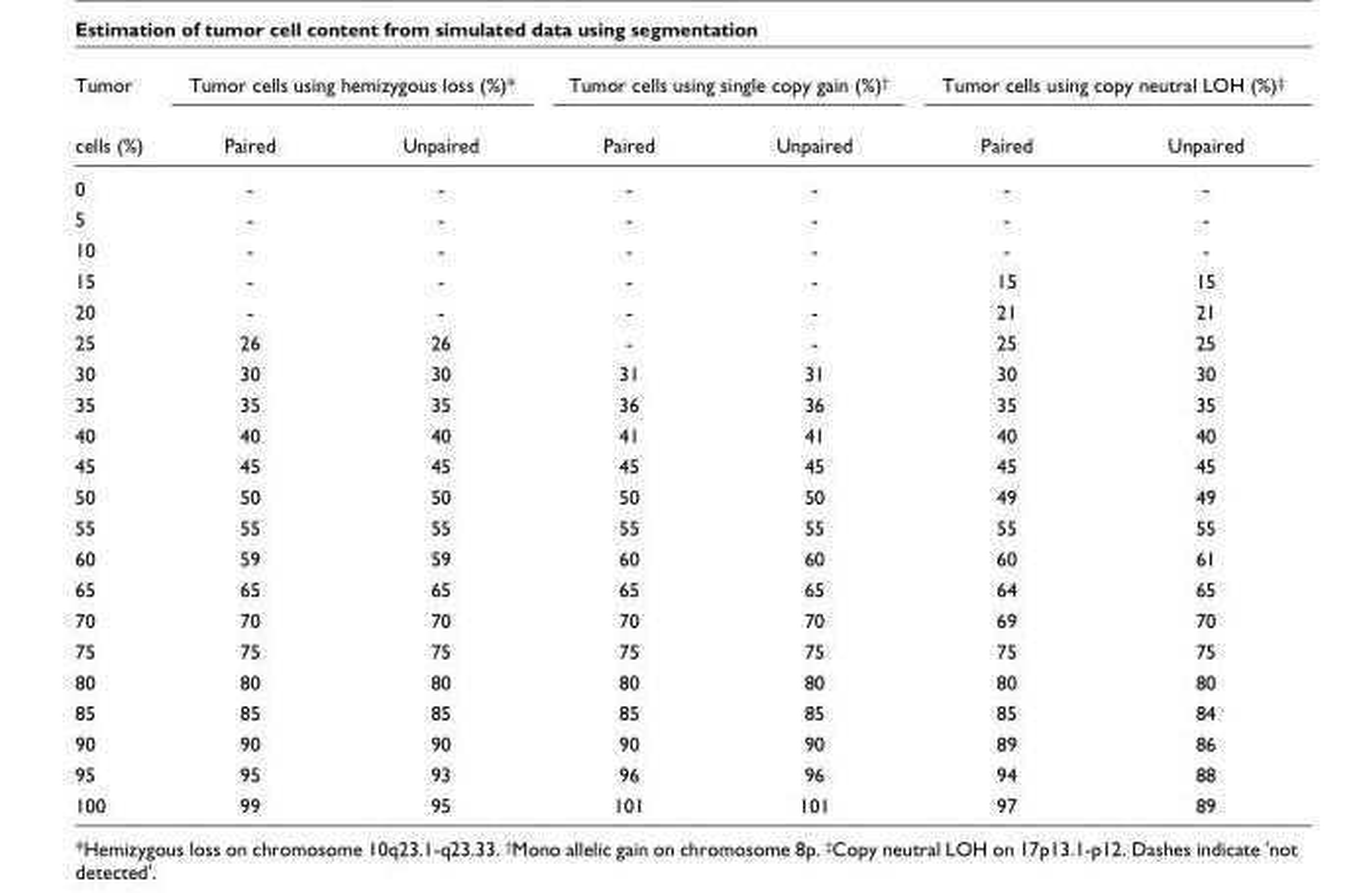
<table><thead><tr><td rowspan="2">Tumor cells (%)</td><td colspan="2">Tumor cells using hemizygous loss (%)*</td><td colspan="2">Tumor cells using single copy gain (%)<sup>†</sup></td><td colspan="2">Tumor cells using copy neutral LOH (%)<sup>‡</sup></td></tr><tr><td>Paired</td><td>Unpaired</td><td>Paired</td><td>Unpaired</td><td>Paired</td><td>Unpaired</td></tr></thead><tbody><tr><td>0</td><td>-</td><td>-</td><td>-</td><td>-</td><td>-</td><td>-</td></tr><tr><td>5</td><td>-</td><td>-</td><td>-</td><td>-</td><td>-</td><td>-</td></tr><tr><td>10</td><td>-</td><td>-</td><td>-</td><td>-</td><td>-</td><td>-</td></tr><tr><td>15</td><td>-</td><td>-</td><td>-</td><td>-</td><td>15</td><td>15</td></tr><tr><td>20</td><td>-</td><td>-</td><td>-</td><td>-</td><td>21</td><td>21</td></tr><tr><td>25</td><td>26</td><td>26</td><td>-</td><td>-</td><td>25</td><td>25</td></tr><tr><td>30</td><td>30</td><td>30</td><td>31</td><td>31</td><td>30</td><td>30</td></tr><tr><td>35</td><td>35</td><td>35</td><td>36</td><td>36</td><td>35</td><td>35</td></tr><tr><td>40</td><td>40</td><td>40</td><td>41</td><td>41</td><td>40</td><td>40</td></tr><tr><td>45</td><td>45</td><td>45</td><td>45</td><td>45</td><td>45</td><td>45</td></tr><tr><td>50</td><td>50</td><td>50</td><td>50</td><td>50</td><td>49</td><td>49</td></tr><tr><td>55</td><td>55</td><td>55</td><td>55</td><td>55</td><td>55</td><td>55</td></tr><tr><td>60</td><td>59</td><td>59</td><td>60</td><td>60</td><td>60</td><td>61</td></tr><tr><td>65</td><td>65</td><td>65</td><td>65</td><td>65</td><td>64</td><td>65</td></tr><tr><td>70</td><td>70</td><td>70</td><td>70</td><td>70</td><td>69</td><td>70</td></tr><tr><td>75</td><td>75</td><td>75</td><td>75</td><td>75</td><td>75</td><td>75</td></tr><tr><td>80</td><td>80</td><td>80</td><td>80</td><td>80</td><td>80</td><td>80</td></tr><tr><td>85</td><td>85</td><td>85</td><td>85</td><td>85</td><td>85</td><td>84</td></tr><tr><td>90</td><td>90</td><td>90</td><td>90</td><td>90</td><td>89</td><td>86</td></tr><tr><td>95</td><td>95</td><td>93</td><td>96</td><td>96</td><td>94</td><td>88</td></tr><tr><td>100</td><td>99</td><td>95</td><td>101</td><td>101</td><td>97</td><td>89</td></tr></tbody></table>